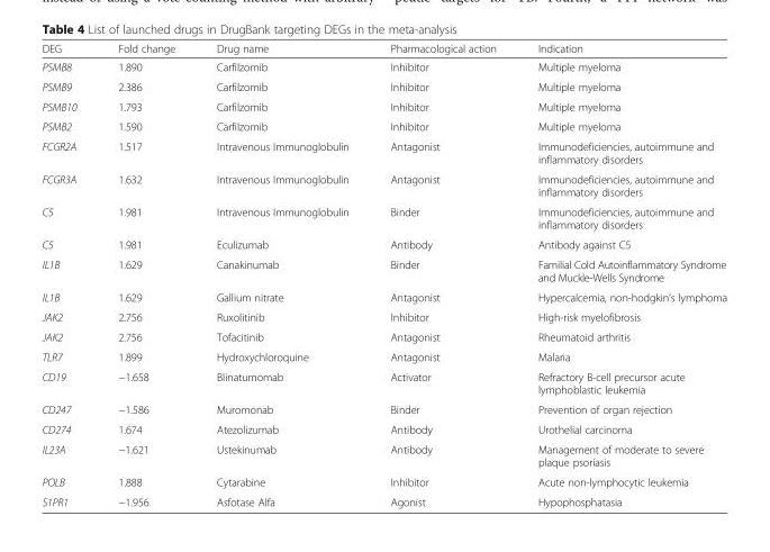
<table><thead><tr><td>DEG</td><td>Fold change</td><td>Drug name</td><td>Pharmacological action</td><td>Indication</td></tr></thead><tbody><tr><td>PSMB8</td><td>1.890</td><td>Carfilzomib</td><td>Inhibitor</td><td>Multiple myeloma</td></tr><tr><td>PSMB9</td><td>2.386</td><td>Carfilzomib</td><td>Inhibitor</td><td>Multiple myeloma</td></tr><tr><td>PSMB10</td><td>1.793</td><td>Carfilzomib</td><td>Inhibitor</td><td>Multiple myeloma</td></tr><tr><td>PSMB2</td><td>1.590</td><td>Carfilzomib</td><td>Inhibitor</td><td>Multiple myeloma</td></tr><tr><td>FCGR2A</td><td>1.517</td><td>Intravenous Immunoglobulin</td><td>Antagonist</td><td>Immunodeficiencies, autoimmune and inflammatory disorders</td></tr><tr><td>FCGR3A</td><td>1.632</td><td>Intravenous Immunoglobulin</td><td>Antagonist</td><td>Immunodeficiencies, autoimmune and inflammatory disorders</td></tr><tr><td>C5</td><td>1.981</td><td>Intravenous Immunoglobulin</td><td>Binder</td><td>Immunodeficiencies, autoimmune and inflammatory disorders</td></tr><tr><td>C5</td><td>1.981</td><td>Eculizumab</td><td>Antibody</td><td>Antibody against C5</td></tr><tr><td>IL1B</td><td>1.629</td><td>Canakinumab</td><td>Binder</td><td>Familial Cold Autoinflammatory Syndrome and Muckle-Wells Syndrome</td></tr><tr><td>IL1B</td><td>1.629</td><td>Gallium nitrate</td><td>Antagonist</td><td>Hypercalcemia, non-hodgkin’s lymphoma</td></tr><tr><td>JAK2</td><td>2.756</td><td>Ruxolitinib</td><td>Inhibitor</td><td>High-risk myelofibrosis</td></tr><tr><td>JAK2</td><td>2.756</td><td>Tofacitinib</td><td>Antagonist</td><td>Rheumatoid arthritis</td></tr><tr><td>TLR7</td><td>1.899</td><td>Hydroxychloroquine</td><td>Antagonist</td><td>Malaria</td></tr><tr><td>CD19</td><td>−1.658</td><td>Blinatumomab</td><td>Activator</td><td>Refractory B-cell precursor acute lymphoblastic leukemia</td></tr><tr><td>CD247</td><td>−1.586</td><td>Muromonab</td><td>Binder</td><td>Prevention of organ rejection</td></tr><tr><td>CD274</td><td>1.674</td><td>Atezolizumab</td><td>Antibody</td><td>Urothelial carcinoma</td></tr><tr><td>IL23A</td><td>−1.621</td><td>Ustekinumab</td><td>Antibody</td><td>Management of moderate to severe plaque psoriasis</td></tr><tr><td>POLB</td><td>1.888</td><td>Cytarabine</td><td>Inhibitor</td><td>Acute non-lymphocytic leukemia</td></tr><tr><td>S1PR1</td><td>−1.956</td><td>Asfotase Alfa</td><td>Agonist</td><td>Hypophosphatasia</td></tr></tbody></table>